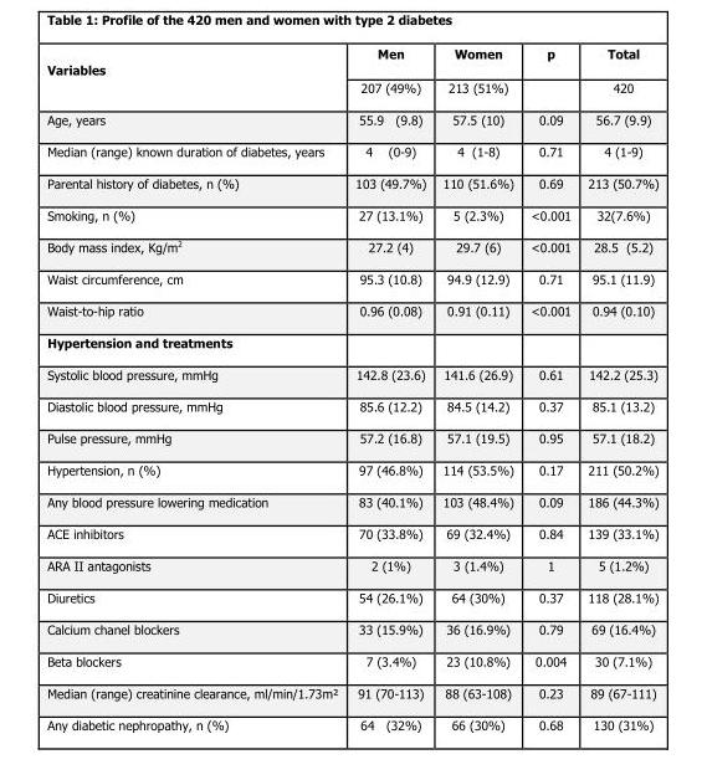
<table><thead><tr><td rowspan="2">Variables</td><td rowspan="2">Men 207 (49%)</td><td rowspan="2">Women 213 (51%)</td><td rowspan="2">p</td><td rowspan="2">Total 420</td></tr><tr></tr></thead><tbody><tr><td>Age, years</td><td>55.9 (9.8)</td><td>57.5 (10)</td><td>0.09</td><td>56.7 (9.9)</td></tr><tr><td>Median (range) known duration of diabetes, years</td><td>4 (0-9)</td><td>4 (1-8)</td><td>0.71</td><td>4 (1-9)</td></tr><tr><td>Parental history of diabetes, n (%)</td><td>103 (49.7%)</td><td>110 (51.6%)</td><td>0.69</td><td>213 (50.7%)</td></tr><tr><td>Smoking, n (%)</td><td>27 (13.1%)</td><td>5 (2.3%)</td><td>&lt;0.001</td><td>32(7.6%)</td></tr><tr><td>Body mass index, Kg/m<sup>2</sup></td><td>27.2 (4)</td><td>29.7 (6)</td><td>&lt;0.001</td><td>28.5 (5.2)</td></tr><tr><td>Waist circumference, cm</td><td>95.3 (10.8)</td><td>94.9 (12.9)</td><td>0.71</td><td>95.1 (11.9)</td></tr><tr><td>Waist-to-hip ratio</td><td>0.96 (0.08)</td><td>0.91 (0.11)</td><td>&lt;0.001</td><td>0.94 (0.10)</td></tr><tr><td colspan="5">Hypertension and treatments</td></tr><tr><td>Systolic blood pressure, mmHg</td><td>142.8 (23.6)</td><td>141.6 (26.9)</td><td>0.61</td><td>142.2 (25.3)</td></tr><tr><td>Diastolic blood pressure, mmHg</td><td>85.6 (12.2)</td><td>84.5 (14.2)</td><td>0.37</td><td>85.1 (13.2)</td></tr><tr><td>Pulse pressure, mmHg</td><td>57.2 (16.8)</td><td>57.1 (19.5)</td><td>0.95</td><td>57.1 (18.2)</td></tr><tr><td>Hypertension, n (%)</td><td>97 (46.8%)</td><td>114 (53.5%)</td><td>0.17</td><td>211 (50.2%)</td></tr><tr><td>Any blood pressure lowering medication</td><td>83 (40.1%)</td><td>103 (48.4%)</td><td>0.09</td><td>186 (44.3%)</td></tr><tr><td>ACE inhibitors</td><td>70 (33.8%)</td><td>69 (32.4%)</td><td>0.84</td><td>139 (33.1%)</td></tr><tr><td>ARA II antagonists</td><td>2 (1%)</td><td>3 (1.4%)</td><td>1</td><td>5 (1.2%)</td></tr><tr><td>Diuretics</td><td>54 (26.1%)</td><td>64 (30%)</td><td>0.37</td><td>118 (28.1%)</td></tr><tr><td>Calcium chanel blockers</td><td>33 (15.9%)</td><td>36 (16.9%)</td><td>0.79</td><td>69 (16.4%)</td></tr><tr><td>Beta blockers</td><td>7 (3.4%)</td><td>23 (10.8%)</td><td>0.004</td><td>30 (7.1%)</td></tr><tr><td>Median (range) creatinine clearance, ml/min/1.73m²</td><td>91 (70-113)</td><td>88 (63-108)</td><td>0.23</td><td>89 (67-111)</td></tr><tr><td>Any diabetic nephropathy, n (%)</td><td>64 (32%)</td><td>66 (30%)</td><td>0.68</td><td>130 (31%)</td></tr></tbody></table>